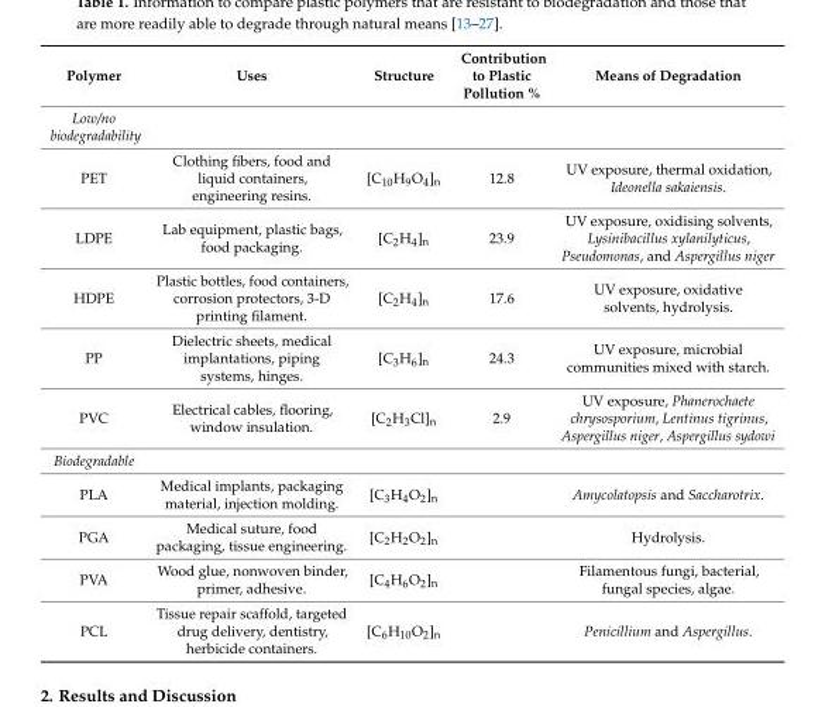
<table><thead><tr><td>Polymer</td><td>Uses</td><td>Structure</td><td>Contribution to Plastic Pollution %</td><td>Means of Degradation</td></tr></thead><tbody><tr><td colspan="5">Low/no biodegradability</td></tr><tr><td>PET</td><td>Clothing fibers, food and liquid containers, engineering resins.</td><td>[C<sub>10</sub>H<sub>9</sub>O<sub>4</sub>]<sub>n</sub></td><td>12.8</td><td>UV exposure, thermal oxidation, Ideonella sakaiensis.</td></tr><tr><td>LDPE</td><td>Lab equipment, plastic bags, food packaging.</td><td>[C<sub>2</sub>H<sub>4</sub>]<sub>n</sub></td><td>23.9</td><td>UV exposure, oxidising solvents, Lysinibacillus xylanilyticus, Pseudomonas, and Aspergillus niger</td></tr><tr><td>HDPE</td><td>Plastic bottles, food containers, corrosion protectors, 3-D printing filament.</td><td>[C<sub>2</sub>H<sub>4</sub>]<sub>n</sub></td><td>17.6</td><td>UV exposure, oxidative solvents, hydrolysis.</td></tr><tr><td>PP</td><td>Dielectric sheets, medical implantations, piping systems, hinges.</td><td>[C<sub>3</sub>H<sub>6</sub>]<sub>n</sub></td><td>24.3</td><td>UV exposure, microbial communities mixed with starch.</td></tr><tr><td>PVC</td><td>Electrical cables, flooring, window insulation.</td><td>[C<sub>2</sub>H<sub>3</sub>Cl]<sub>n</sub></td><td>2.9</td><td>UV exposure, Phanerochaete chrysosporium, Lentinus tigrinus, Aspergillus niger, Aspergillus sydowi</td></tr><tr><td colspan="5">Biodegradable</td></tr><tr><td>PLA</td><td>Medical implants, packaging material, injection molding.</td><td>[C<sub>3</sub>H<sub>4</sub>O<sub>2</sub>]<sub>n</sub></td><td></td><td>Amycolatopsis and Saccharotrix.</td></tr><tr><td>PGA</td><td>Medical suture, food packaging, tissue engineering.</td><td>[C<sub>2</sub>H<sub>2</sub>O<sub>2</sub>]<sub>n</sub></td><td></td><td>Hydrolysis.</td></tr><tr><td>PVA</td><td>Wood glue, nonwoven binder, primer, adhesive.</td><td>[C<sub>4</sub>H<sub>6</sub>O<sub>2</sub>]<sub>n</sub></td><td></td><td>Filamentous fungi, bacterial, fungal species, algae.</td></tr><tr><td>PCL</td><td>Tissue repair scaffold, targeted drug delivery, dentistry, herbicide containers.</td><td>[C<sub>6</sub>H<sub>10</sub>O<sub>2</sub>]<sub>n</sub></td><td></td><td>Penicillium and Aspergillus.</td></tr></tbody></table>